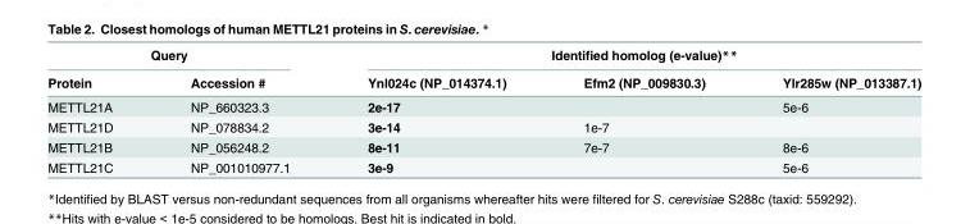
<table><thead><tr><td colspan="2">Query</td><td colspan="3">Identified homolog (e-value)**</td></tr><tr><td>Protein</td><td>Accession #</td><td>Ynl024c (NP_014374.1)</td><td>Efm2 (NP_009830.3)</td><td>Ylr285w (NP_013387.1)</td></tr></thead><tbody><tr><td>METTL21A</td><td>NP_660323.3</td><td>2e-17</td><td></td><td>5e-6</td></tr><tr><td>METTL21D</td><td>NP_078834.2</td><td>3e-14</td><td>1e-7</td><td></td></tr><tr><td>METTL21B</td><td>NP_056248.2</td><td>8e-11</td><td>7e-7</td><td>8e-6</td></tr><tr><td>METTL21C</td><td>NP_001010977.1</td><td>3e-9</td><td></td><td>5e-6</td></tr></tbody></table>